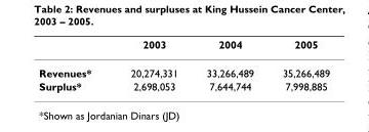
<table><thead><tr><td></td><td>2003</td><td>2004</td><td>2005</td></tr></thead><tbody><tr><td>Revenues*</td><td>20,274,331</td><td>33,266,489</td><td>35,266,489</td></tr><tr><td>Surplus*</td><td>2,698,053</td><td>7,644,744</td><td>7,998,885</td></tr></tbody></table>